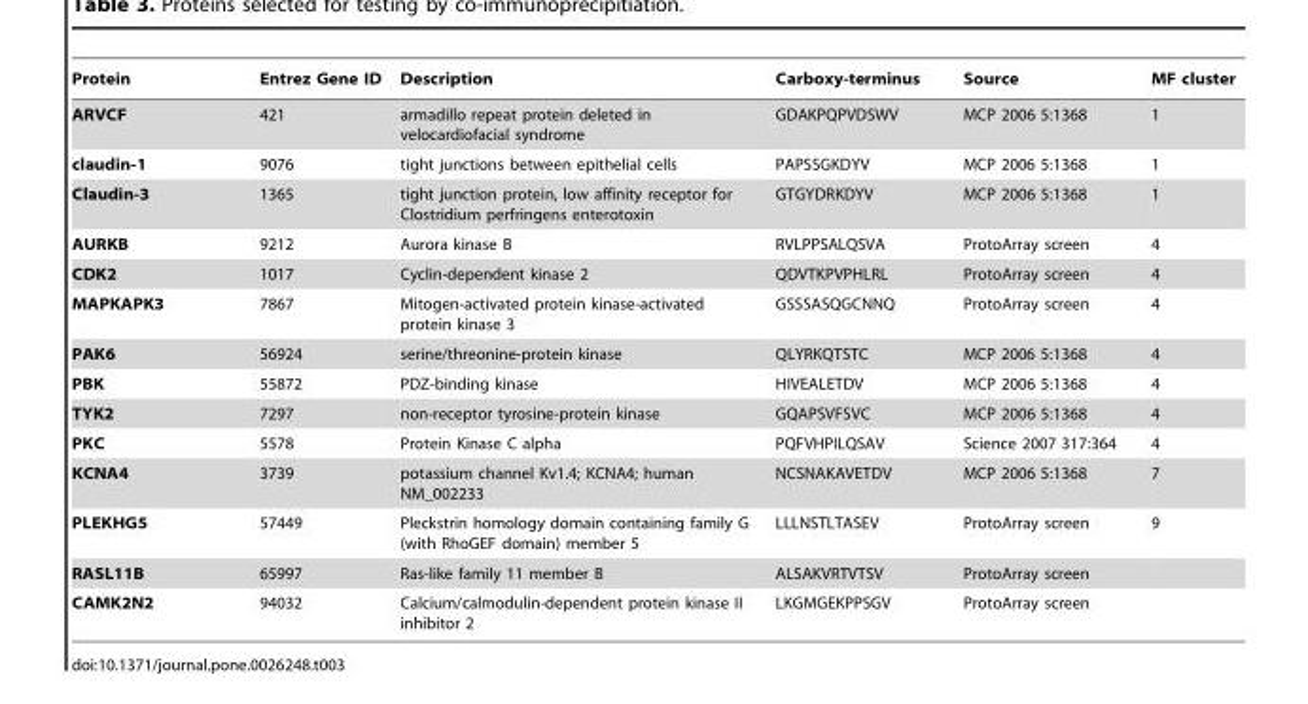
<table><thead><tr><td>Protein</td><td>Entrez Gene ID</td><td>Description</td><td>Carboxy-terminus</td><td>Source</td><td>MF cluster</td></tr></thead><tbody><tr><td>ARVCF</td><td>421</td><td>armadillo repeat protein deleted in velocardiofacial syndrome</td><td>GDAKPQPVDSWV</td><td>MCP 2006 5:1368</td><td>1</td></tr><tr><td>claudin-1</td><td>9076</td><td>tight junctions between epithelial cells</td><td>PAPSSGKDYV</td><td>MCP 2006 5:1368</td><td>1</td></tr><tr><td>Claudin-3</td><td>1365</td><td>tight junction protein, low affinity receptor for Clostridium perfringens enterotoxin</td><td>GTGYDRKDYV</td><td>MCP 2006 5:1368</td><td>1</td></tr><tr><td>AURKB</td><td>9212</td><td>Aurora kinase B</td><td>RVLPPSALQSVA</td><td>ProtoArray screen</td><td>4</td></tr><tr><td>CDK2</td><td>1017</td><td>Cyclin-dependent kinase 2</td><td>QDVTKPVPHLRL</td><td>ProtoArray screen</td><td>4</td></tr><tr><td>MAPKAPK3</td><td>7867</td><td>Mitogen-activated protein kinase-activated protein kinase 3</td><td>GSSSASQGCNNQ</td><td>ProtoArray screen</td><td>4</td></tr><tr><td>PAK6</td><td>56924</td><td>serine/threonine-protein kinase</td><td>QLYRKQTSTC</td><td>MCP 2006 5:1368</td><td>4</td></tr><tr><td>PBK</td><td>55872</td><td>PDZ-binding kinase</td><td>HIVEALETDV</td><td>MCP 2006 5:1368</td><td>4</td></tr><tr><td>TYK2</td><td>7297</td><td>non-receptor tyrosine-protein kinase</td><td>GQAPSVFSVC</td><td>MCP 2006 5:1368</td><td>4</td></tr><tr><td>PKC</td><td>5578</td><td>Protein Kinase C alpha</td><td>PQFVHPILQSAV</td><td>Science 2007 317:364</td><td>4</td></tr><tr><td>KCNA4</td><td>3739</td><td>potassium channel Kv1.4; KCNA4; human NM_002233</td><td>NCSNAKAVETDV</td><td>MCP 2006 5:1368</td><td>7</td></tr><tr><td>PLEKHG5</td><td>57449</td><td>Pleckstrin homology domain containing family G (with RhoGEF domain) member 5</td><td>LLLNSTLTASEV</td><td>ProtoArray screen</td><td>9</td></tr><tr><td>RASL11B</td><td>65997</td><td>Ras-like family 11 member B</td><td>ALSAKVRTVTSV</td><td>ProtoArray screen</td><td></td></tr><tr><td>CAMK2N2</td><td>94032</td><td>Calcium/calmodulin-dependent protein kinase II inhibitor 2</td><td>LKGMGEKPPSGV</td><td>ProtoArray screen</td><td></td></tr></tbody></table>